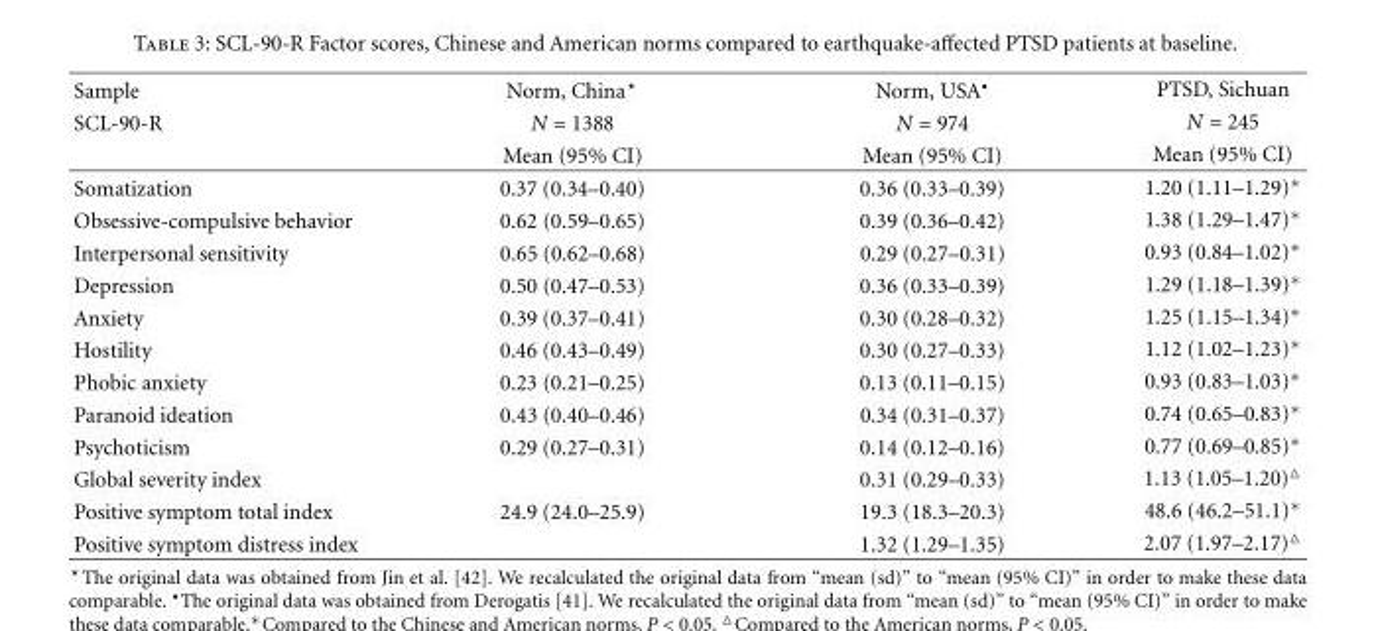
<table><thead><tr><td rowspan="3">Sample SCL-90-R</td><td rowspan="3">Norm, China<sup>⋆</sup> N = 1388 Mean (95% CI)</td><td rowspan="3">Norm, USA• N = 974 Mean (95% CI)</td><td rowspan="3">PTSD, Sichuan N = 245 Mean (95% CI)</td></tr><tr></tr><tr></tr></thead><tbody><tr><td>Somatization</td><td>0.37 (0.34–0.40)</td><td>0.36 (0.33–0.39)</td><td>1.20 (1.11–1.29)∗</td></tr><tr><td>Obsessive-compulsive behavior</td><td>0.62 (0.59–0.65)</td><td>0.39 (0.36–0.42)</td><td>1.38 (1.29–1.47)∗</td></tr><tr><td>Interpersonal sensitivity</td><td>0.65 (0.62–0.68)</td><td>0.29 (0.27–0.31)</td><td>0.93 (0.84–1.02)∗</td></tr><tr><td>Depression</td><td>0.50 (0.47–0.53)</td><td>0.36 (0.33–0.39)</td><td>1.29 (1.18–1.39)∗</td></tr><tr><td>Anxiety</td><td>0.39 (0.37–0.41)</td><td>0.30 (0.28–0.32)</td><td>1.25 (1.15–1.34)∗</td></tr><tr><td>Hostility</td><td>0.46 (0.43–0.49)</td><td>0.30 (0.27–0.33)</td><td>1.12 (1.02–1.23)∗</td></tr><tr><td>Phobic anxiety</td><td>0.23 (0.21–0.25)</td><td>0.13 (0.11–0.15)</td><td>0.93 (0.83–1.03)∗</td></tr><tr><td>Paranoid ideation</td><td>0.43 (0.40–0.46)</td><td>0.34 (0.31–0.37)</td><td>0.74 (0.65–0.83)∗</td></tr><tr><td>Psychoticism</td><td>0.29 (0.27–0.31)</td><td>0.14 (0.12–0.16)</td><td>0.77 (0.69–0.85)∗</td></tr><tr><td>Global severity index</td><td></td><td>0.31 (0.29–0.33)</td><td>1.13 (1.05–1.20)△</td></tr><tr><td>Positive symptom total index</td><td>24.9 (24.0–25.9)</td><td>19.3 (18.3–20.3)</td><td>48.6 (46.2–51.1)∗</td></tr><tr><td>Positive symptom distress index</td><td></td><td>1.32 (1.29–1.35)</td><td>2.07 (1.97–2.17)△</td></tr></tbody></table>